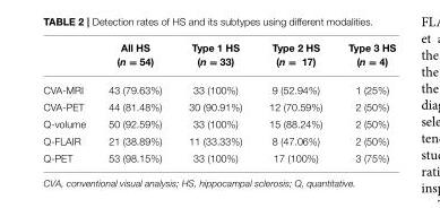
<table><thead><tr><td></td><td>All HS (n = 54)</td><td>Type 1 HS (n = 33)</td><td>Type 2 HS (n = 17)</td><td>Type 3 HS (n = 4)</td></tr></thead><tbody><tr><td>CVA-MRI</td><td>43 (79.63%)</td><td>33 (100%)</td><td>9 (52.94%)</td><td>1 (25%)</td></tr><tr><td>CVA-PET</td><td>44 (81.48%)</td><td>30 (90.91%)</td><td>12 (70.59%)</td><td>2 (50%)</td></tr><tr><td>Q-volume</td><td>50 (92.59%)</td><td>33 (100%)</td><td>15 (88.24%)</td><td>2 (50%)</td></tr><tr><td>Q-FLAIR</td><td>21 (38.89%)</td><td>11 (33.33%)</td><td>8 (47.06%)</td><td>2 (50%)</td></tr><tr><td>Q-PET</td><td>53 (98.15%)</td><td>33 (100%)</td><td>17 (100%)</td><td>3 (75%)</td></tr></tbody></table>